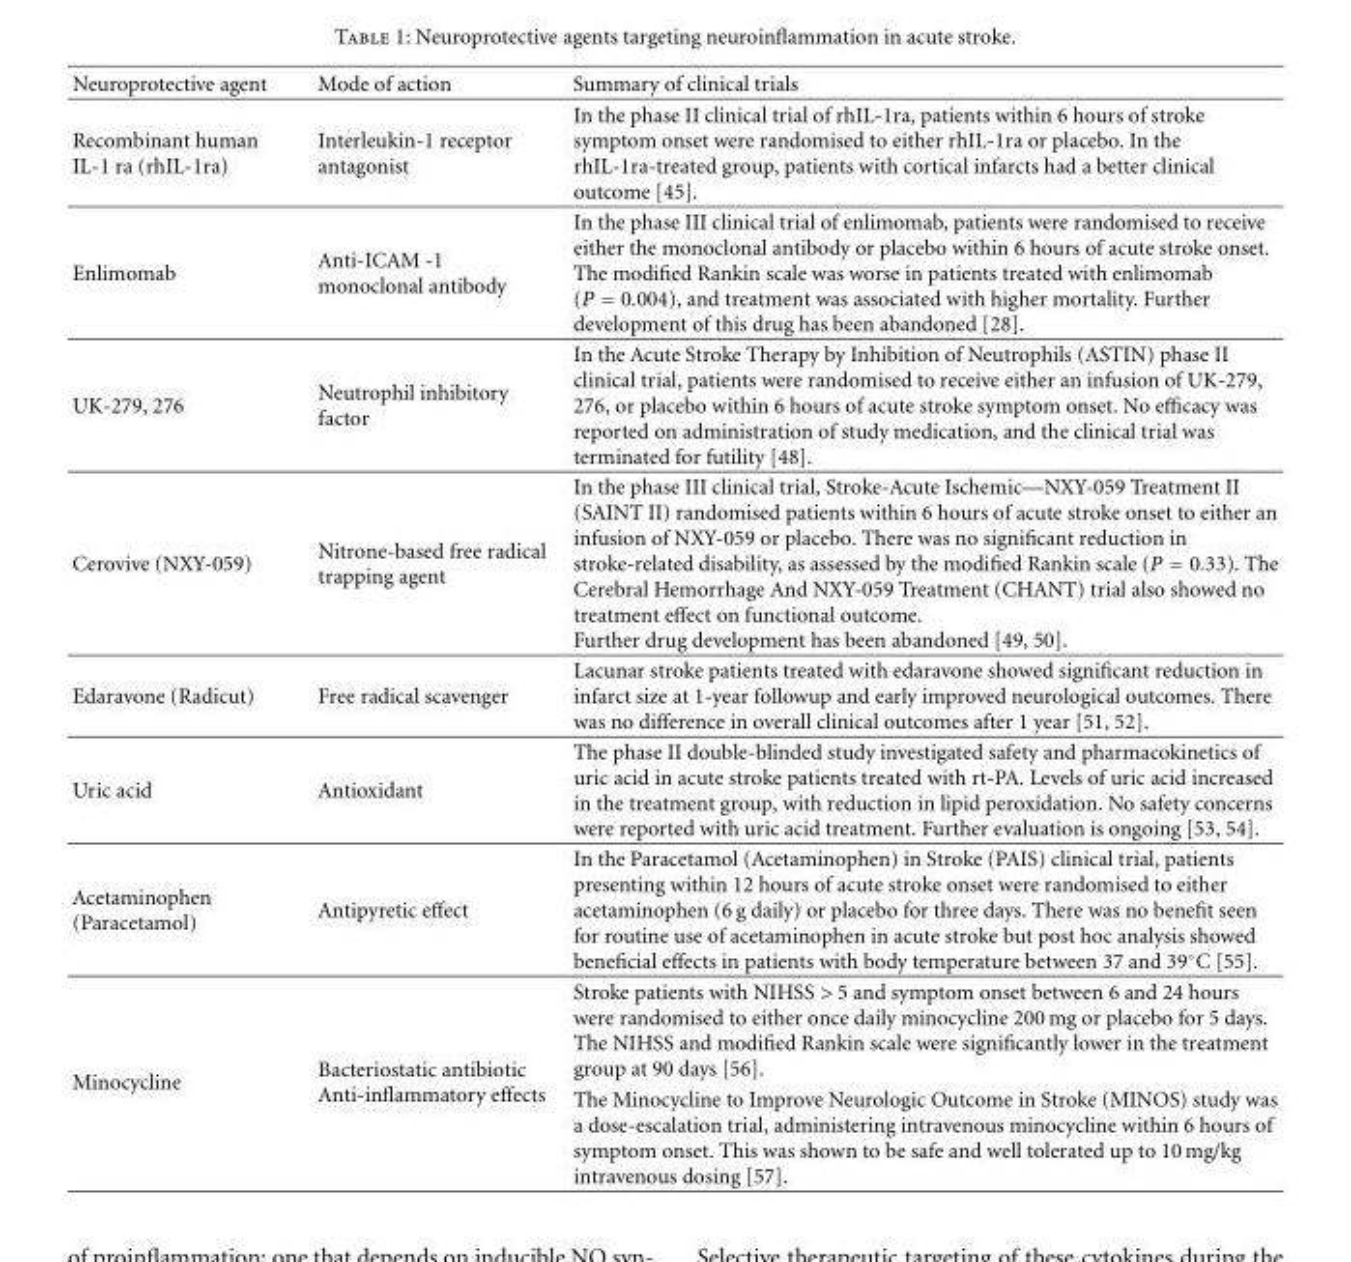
<table><thead><tr><td>Neuroprotective agent</td><td>Mode of action</td><td>Summary of clinical trials</td></tr></thead><tbody><tr><td>Recombinant human IL-1 ra (rhIL-1ra)</td><td>Interleukin-1 receptor antagonist</td><td>In the phase II clinical trial of rhIL-1ra, patients within 6 hours of stroke symptom onset were randomised to either rhIL-1ra or placebo. In the rhIL-1ra-treated group, patients with cortical infarcts had a better clinical outcome [45].</td></tr><tr><td>Enlimomab</td><td>Anti-ICAM -1 monoclonal antibody</td><td>In the phase III clinical trial of enlimomab, patients were randomised to receive either the monoclonal antibody or placebo within 6 hours of acute stroke onset. The modified Rankin scale was worse in patients treated with enlimomab (P = 0.004), and treatment was associated with higher mortality. Further development of this drug has been abandoned [28].</td></tr><tr><td>UK-279, 276</td><td>Neutrophil inhibitory factor</td><td>In the Acute Stroke Therapy by Inhibition of Neutrophils (ASTIN) phase II clinical trial, patients were randomised to receive either an infusion of UK-279, 276, or placebo within 6 hours of acute stroke symptom onset. No efficacy was reported on administration of study medication, and the clinical trial was terminated for futility [48].</td></tr><tr><td>Cerovive (NXY-059)</td><td>Nitrone-based free radical trapping agent</td><td>In the phase III clinical trial, Stroke-Acute Ischemic—NXY-059 Treatment II (SAINT II) randomised patients within 6 hours of acute stroke onset to either an infusion of NXY-059 or placebo. There was no significant reduction in stroke-related disability, as assessed by the modified Rankin scale (P = 0.33). The Cerebral Hemorrhage And NXY-059 Treatment (CHANT) trial also showed no treatment effect on functional outcome. Further drug development has been abandoned [49, 50].</td></tr><tr><td>Edaravone (Radicut)</td><td>Free radical scavenger</td><td>Lacunar stroke patients treated with edaravone showed significant reduction in infarct size at 1-year followup and early improved neurological outcomes. There was no difference in overall clinical outcomes after 1 year [51, 52].</td></tr><tr><td>Uric acid</td><td>Antioxidant</td><td>The phase II double-blinded study investigated safety and pharmacokinetics of uric acid in acute stroke patients treated with rt-PA. Levels of uric acid increased in the treatment group, with reduction in lipid peroxidation. No safety concerns were reported with uric acid treatment. Further evaluation is ongoing [53, 54].</td></tr><tr><td>Acetaminophen (Paracetamol)</td><td>Antipyretic effect</td><td>In the Paracetamol (Acetaminophen) in Stroke (PAIS) clinical trial, patients presenting within 12 hours of acute stroke onset were randomised to either acetaminophen (6 g daily) or placebo for three days. There was no benefit seen for routine use of acetaminophen in acute stroke but post hoc analysis showed beneficial effects in patients with body temperature between 37 and 39◦C [55].</td></tr><tr><td rowspan="2">Minocycline</td><td rowspan="2">Bacteriostatic antibiotic Anti-inflammatory effects</td><td>Stroke patients with NIHSS &gt; 5 and symptom onset between 6 and 24 hours were randomised to either once daily minocycline 200 mg or placebo for 5 days. The NIHSS and modified Rankin scale were significantly lower in the treatment group at 90 days [56].</td></tr><tr><td>The Minocycline to Improve Neurologic Outcome in Stroke (MINOS) study was a dose-escalation trial, administering intravenous minocycline within 6 hours of symptom onset. This was shown to be safe and well tolerated up to 10 mg/kg intravenous dosing [57].</td></tr></tbody></table>